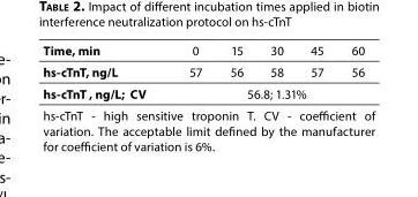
<table><thead><tr><td>Time, min</td><td>0</td><td>15</td><td>30</td><td>45</td><td>60</td></tr></thead><tbody><tr><td>hs-cTnT, ng/L</td><td>57</td><td>56</td><td>58</td><td>57</td><td>56</td></tr><tr><td>hs-cTnT , ng/L; CV</td><td colspan="5">56.8; 1.31%</td></tr><tr><td colspan="6">hs-cTnT - high sensitive troponin T. CV - coefficient of variation. The acceptable limit defined by the manufacturer for coefficient of variation is 6%.</td></tr></tbody></table>